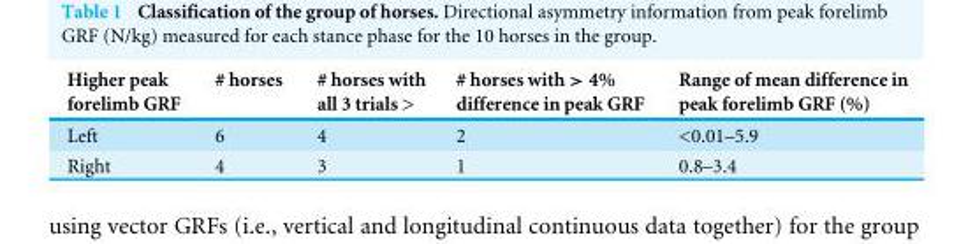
<table><thead><tr><td>Higher peak forelimb GRF</td><td># horses</td><td># horses with all 3 trials &gt;</td><td># horses with &gt; 4% difference in peak GRF</td><td>Range of mean difference in peak forelimb GRF (%)</td></tr></thead><tbody><tr><td>Left</td><td>6</td><td>4</td><td>2</td><td>&lt;0.01–5.9</td></tr><tr><td>Right</td><td>4</td><td>3</td><td>1</td><td>0.8–3.4</td></tr></tbody></table>